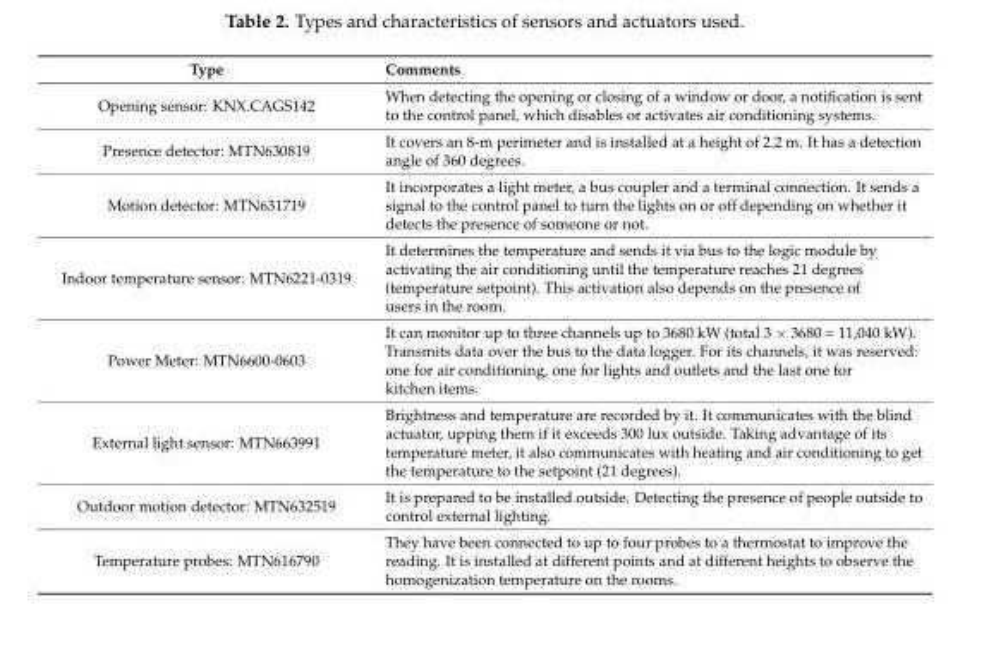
<table><thead><tr><td>Type</td><td>Comments</td></tr></thead><tbody><tr><td>Opening sensor: KNX.CAGS142</td><td>When detecting the opening or closing of a window or door, a notification is sent to the control panel, which disables or activates air conditioning systems.</td></tr><tr><td>Presence detector: MTN630819</td><td>It covers an 8-m perimeter and is installed at a height of 2.2 m. It has a detection angle of 360 degrees.</td></tr><tr><td>Motion detector: MTN631719</td><td>It incorporates a light meter, a bus coupler and a terminal connection. It sends a signal to the control panel to turn the lights on or off depending on whether it detects the presence of someone or not.</td></tr><tr><td>Indoor temperature sensor: MTN6221-0319</td><td>It determines the temperature and sends it via bus to the logic module by activating the air conditioning until the temperature reaches 21 degrees (temperature setpoint). This activation also depends on the presence of users in the room.</td></tr><tr><td>Power Meter: MTN6600-0603</td><td>It can monitor up to three channels up to 3680 kW (total 3 ˆ 3680 = 11,040 kW). Transmits data over the bus to the data logger. For its channels, it was reserved: one for air conditioning, one for lights and outlets and the last one for kitchen items.</td></tr><tr><td>External light sensor: MTN663991</td><td>Brightness and temperature are recorded by it. It communicates with the blind actuator, upping them if it exceeds 300 lux outside. Taking advantage of its temperature meter, it also communicates with heating and air conditioning to get the temperature to the setpoint (21 degrees).</td></tr><tr><td>Outdoor motion detector: MTN632519</td><td>It is prepared to be installed outside. Detecting the presence of people outside to control external lighting.</td></tr><tr><td>Temperature probes: MTN616790</td><td>They have been connected to up to four probes to a thermostat to improve the reading. It is installed at different points and at different heights to observe the homogenization temperature on the rooms.</td></tr></tbody></table>